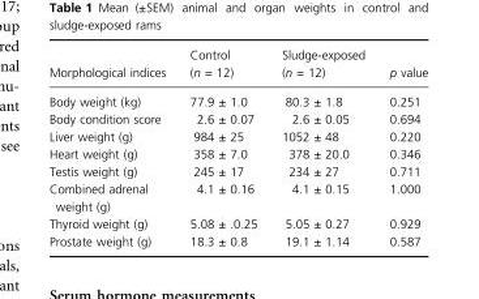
<table><thead><tr><td>Morphological indices</td><td>Control (n = 12)</td><td>Sludge-exposed (n = 12)</td><td>p value</td></tr></thead><tbody><tr><td>Body weight (kg)</td><td>77.9 ± 1.0</td><td>80.3 ± 1.8</td><td>0.251</td></tr><tr><td>Body condition score</td><td>2.6 ± 0.07</td><td>2.6 ± 0.05</td><td>0.694</td></tr><tr><td>Liver weight (g)</td><td>984 ± 25</td><td>1052 ± 48</td><td>0.220</td></tr><tr><td>Heart weight (g)</td><td>358 ± 7.0</td><td>378 ± 20.0</td><td>0.346</td></tr><tr><td>Testis weight (g)</td><td>245 ± 17</td><td>234 ± 27</td><td>0.711</td></tr><tr><td>Combined adrenal weight (g)</td><td>4.1 ± 0.16</td><td>4.1 ± 0.15</td><td>1.000</td></tr><tr><td>Thyroid weight (g)</td><td>5.08 ± .0.25</td><td>5.05 ± 0.27</td><td>0.929</td></tr><tr><td>Prostate weight (g)</td><td>18.3 ± 0.8</td><td>19.1 ± 1.14</td><td>0.587</td></tr></tbody></table>